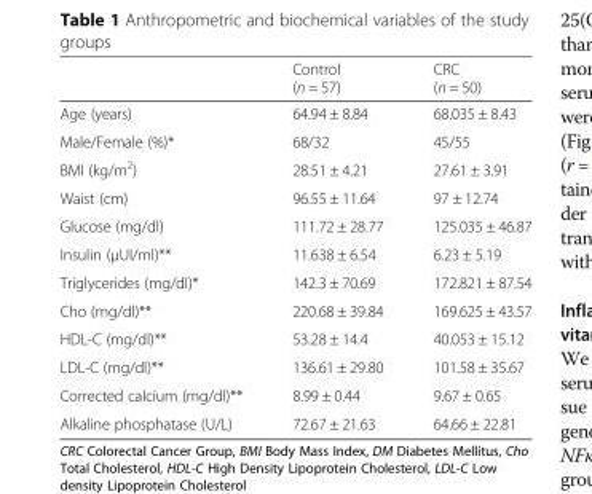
<table><thead><tr><td></td><td>Control (n = 57)</td><td>CRC (n = 50)</td></tr></thead><tbody><tr><td>Age (years)</td><td>64.94 ± 8.84</td><td>68.035 ± 8.43</td></tr><tr><td>Male/Female (%)*</td><td>68/32</td><td>45/55</td></tr><tr><td>BMI (kg/m<sup>2</sup>)</td><td>28.51 ± 4.21</td><td>27.61 ± 3.91</td></tr><tr><td>Waist (cm)</td><td>96.55 ± 11.64</td><td>97 ± 12.74</td></tr><tr><td>Glucose (mg/dl)</td><td>111.72 ± 28.77</td><td>125.035 ± 46.87</td></tr><tr><td>Insulin (μUI/ml)**</td><td>11.638 ± 6.54</td><td>6.23 ± 5.19</td></tr><tr><td>Triglycerides (mg/dl)*</td><td>142.3 ± 70.69</td><td>172.821 ± 87.54</td></tr><tr><td>Cho (mg/dl)**</td><td>220.68 ± 39.84</td><td>169.625 ± 43.57</td></tr><tr><td>HDL-C (mg/dl)**</td><td>53.28 ± 14.4</td><td>40.053 ± 15.12</td></tr><tr><td>LDL-C (mg/dl)**</td><td>136.61 ± 29.80</td><td>101.58 ± 35.67</td></tr><tr><td>Corrected calcium (mg/dl)**</td><td>8.99 ± 0.44</td><td>9.67 ± 0.65</td></tr><tr><td>Alkaline phosphatase (U/L)</td><td>72.67 ± 21.63</td><td>64.66 ± 22.81</td></tr></tbody></table>